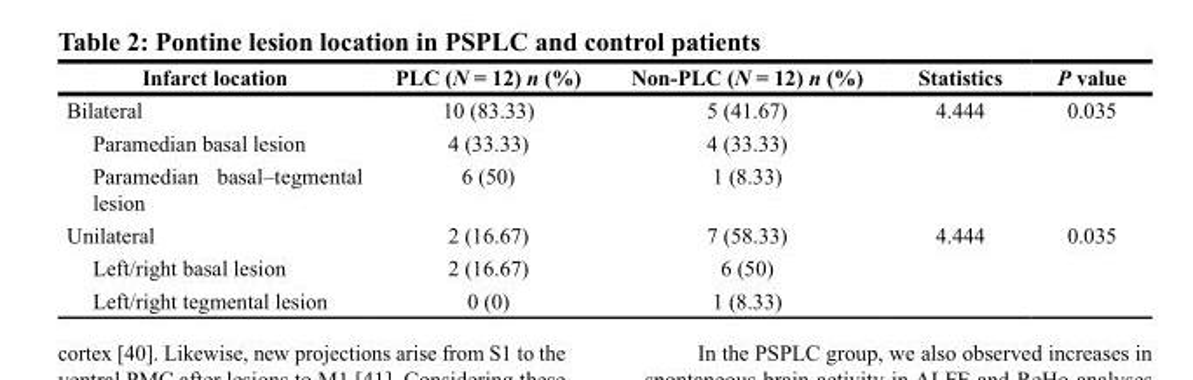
<table><thead><tr><td>Infarct location</td><td>PLC (N = 12) n (%)</td><td>Non-PLC (N = 12) n (%)</td><td>Statistics</td><td>P value</td></tr></thead><tbody><tr><td>Bilateral</td><td>10 (83.33)</td><td>5 (41.67)</td><td>4.444</td><td>0.035</td></tr><tr><td>Paramedian basal lesion</td><td>4 (33.33)</td><td>4 (33.33)</td><td></td><td></td></tr><tr><td>Paramedian basal–tegmental lesion</td><td>6 (50)</td><td>1 (8.33)</td><td></td><td></td></tr><tr><td>Unilateral</td><td>2 (16.67)</td><td>7 (58.33)</td><td>4.444</td><td>0.035</td></tr><tr><td>Left/right basal lesion</td><td>2 (16.67)</td><td>6 (50)</td><td></td><td></td></tr><tr><td>Left/right tegmental lesion</td><td>0 (0)</td><td>1 (8.33)</td><td></td><td></td></tr></tbody></table>